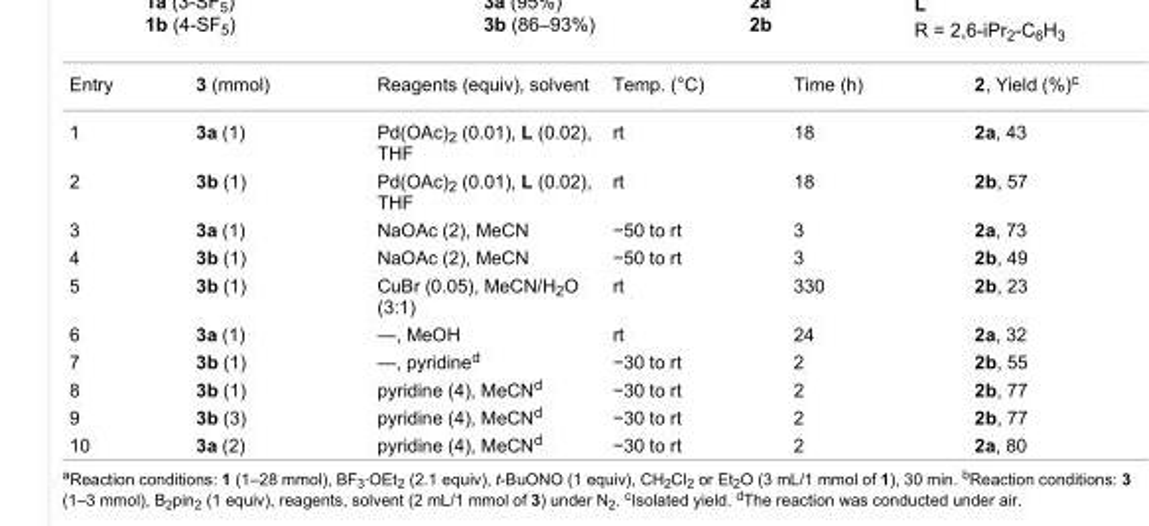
<table><tbody><tr><td>Entry</td><td>3 (mmol)</td><td>Reagents (equiv), solvent</td><td>Temp. (°C)</td><td>Time (h)</td><td>2, Yield (%)<sup>c</sup></td></tr><tr><td>1</td><td>3a (1)</td><td>Pd(OAc)<sub>2</sub> (0.01), L (0.02), THF</td><td>rt</td><td>18</td><td>2a, 43</td></tr><tr><td>2</td><td>3b (1)</td><td>Pd(OAc)<sub>2</sub> (0.01), L (0.02), THF</td><td>rt</td><td>18</td><td>2b, 57</td></tr><tr><td>3</td><td>3a (1)</td><td>NaOAc (2), MeCN</td><td>−50 to rt</td><td>3</td><td>2a, 73</td></tr><tr><td>4</td><td>3b (1)</td><td>NaOAc (2), MeCN</td><td>−50 to rt</td><td>3</td><td>2b, 49</td></tr><tr><td>5</td><td>3b (1)</td><td>CuBr (0.05), MeCN/H<sub>2</sub>O (3:1)</td><td>rt</td><td>330</td><td>2b, 23</td></tr><tr><td>6</td><td>3a (1)</td><td>—, MeOH</td><td>rt</td><td>24</td><td>2a, 32</td></tr><tr><td>7</td><td>3b (1)</td><td>—, pyridine<sup>d</sup></td><td>−30 to rt</td><td>2</td><td>2b, 55</td></tr><tr><td>8</td><td>3b (1)</td><td>pyridine (4), MeCN<sup>d</sup></td><td>−30 to rt</td><td>2</td><td>2b, 77</td></tr><tr><td>9</td><td>3b (3)</td><td>pyridine (4), MeCN<sup>d</sup></td><td>−30 to rt</td><td>2</td><td>2b, 77</td></tr><tr><td>10</td><td>3a (2)</td><td>pyridine (4), MeCN<sup>d</sup></td><td>−30 to rt</td><td>2</td><td>2a, 80</td></tr></tbody></table>